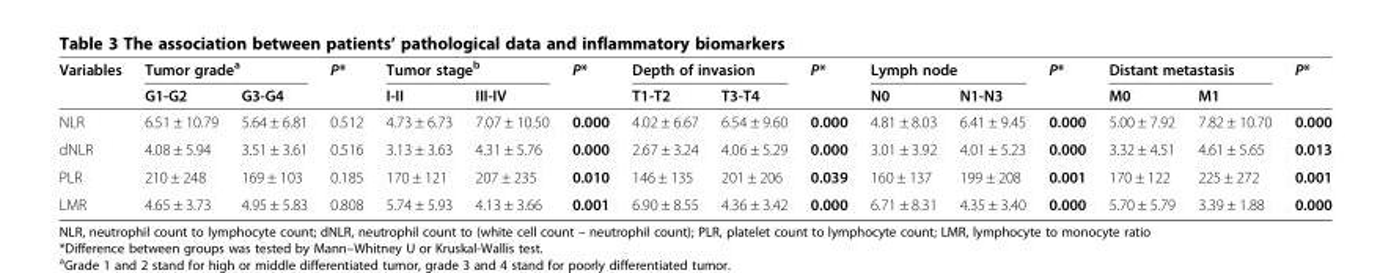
<table><thead><tr><td rowspan="2">Variables</td><td colspan="2">Tumor grade<sup>a</sup></td><td rowspan="2">P*</td><td colspan="2">Tumor stage<sup>b</sup></td><td rowspan="2">P*</td><td colspan="2">Depth of invasion</td><td rowspan="2">P*</td><td colspan="2">Lymph node</td><td rowspan="2">P*</td><td colspan="2">Distant metastasis</td><td rowspan="2">P*</td></tr><tr><td>G1-G2</td><td>G3-G4</td><td>I-II</td><td>III-IV</td><td>T1-T2</td><td>T3-T4</td><td>N0</td><td>N1-N3</td><td>M0</td><td>M1</td></tr></thead><tbody><tr><td>NLR</td><td>6.51 ± 10.79</td><td>5.64 ± 6.81</td><td>0.512</td><td>4.73 ± 6.73</td><td>7.07 ± 10.50</td><td>0.000</td><td>4.02 ± 6.67</td><td>6.54 ± 9.60</td><td>0.000</td><td>4.81 ± 8.03</td><td>6.41 ± 9.45</td><td>0.000</td><td>5.00 ± 7.92</td><td>7.82 ± 10.70</td><td>0.000</td></tr><tr><td>dNLR</td><td>4.08 ± 5.94</td><td>3.51 ± 3.61</td><td>0.516</td><td>3.13 ± 3.63</td><td>4.31 ± 5.76</td><td>0.000</td><td>2.67 ± 3.24</td><td>4.06 ± 5.29</td><td>0.000</td><td>3.01 ± 3.92</td><td>4.01 ± 5.23</td><td>0.000</td><td>3.32 ± 4.51</td><td>4.61 ± 5.65</td><td>0.013</td></tr><tr><td>PLR</td><td>210 ± 248</td><td>169 ± 103</td><td>0.185</td><td>170 ± 121</td><td>207 ± 235</td><td>0.010</td><td>146 ± 135</td><td>201 ± 206</td><td>0.039</td><td>160 ± 137</td><td>199 ± 208</td><td>0.001</td><td>170 ± 122</td><td>225 ± 272</td><td>0.001</td></tr><tr><td>LMR</td><td>4.65 ± 3.73</td><td>4.95 ± 5.83</td><td>0.808</td><td>5.74 ± 5.93</td><td>4.13 ± 3.66</td><td>0.001</td><td>6.90 ± 8.55</td><td>4.36 ± 3.42</td><td>0.000</td><td>6.71 ± 8.31</td><td>4.35 ± 3.40</td><td>0.000</td><td>5.70 ± 5.79</td><td>3.39 ± 1.88</td><td>0.000</td></tr></tbody></table>